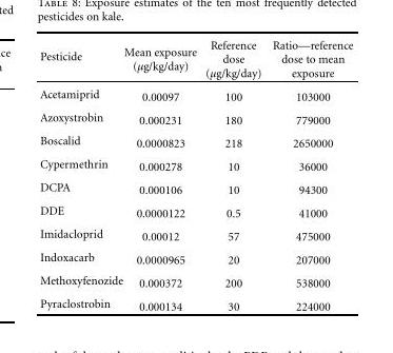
<table><thead><tr><td>Pesticide</td><td>Mean exposure (µg/kg/day)</td><td>Reference dose (µg/kg/day)</td><td>Ratio—reference dose to mean exposure</td></tr></thead><tbody><tr><td>Acetamiprid</td><td>0.00097</td><td>100</td><td>103000</td></tr><tr><td>Azoxystrobin</td><td>0.000231</td><td>180</td><td>779000</td></tr><tr><td>Boscalid</td><td>0.0000823</td><td>218</td><td>2650000</td></tr><tr><td>Cypermethrin</td><td>0.000278</td><td>10</td><td>36000</td></tr><tr><td>DCPA</td><td>0.000106</td><td>10</td><td>94300</td></tr><tr><td>DDE</td><td>0.0000122</td><td>0.5</td><td>41000</td></tr><tr><td>Imidacloprid</td><td>0.00012</td><td>57</td><td>475000</td></tr><tr><td>Indoxacarb</td><td>0.0000965</td><td>20</td><td>207000</td></tr><tr><td>Methoxyfenozide</td><td>0.000372</td><td>200</td><td>538000</td></tr><tr><td>Pyraclostrobin</td><td>0.000134</td><td>30</td><td>224000</td></tr></tbody></table>